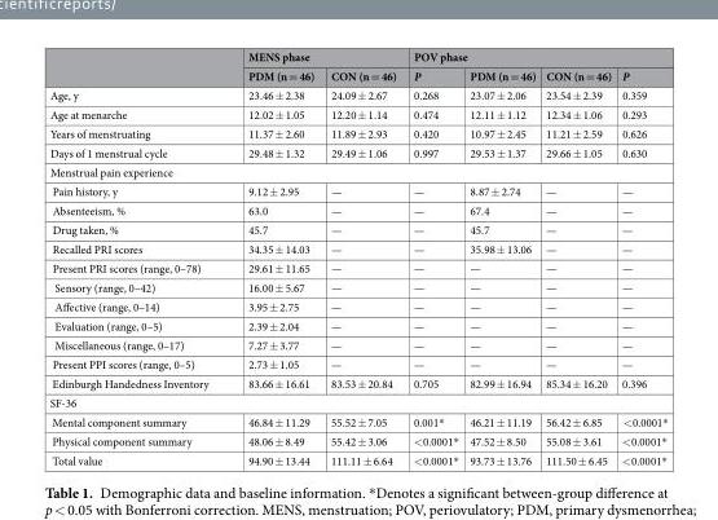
<table><thead><tr><td rowspan="2"></td><td colspan="2">MENS phase</td><td colspan="4">POV phase</td></tr><tr><td>PDM (n = 46)</td><td>CON (n = 46)</td><td>P</td><td>PDM (n = 46)</td><td>CON (n = 46)</td><td>P</td></tr></thead><tbody><tr><td>Age, y</td><td>23.46 ± 2.38</td><td>24.09 ± 2.67</td><td>0.268</td><td>23.07 ± 2.06</td><td>23.54 ± 2.39</td><td>0.359</td></tr><tr><td>Age at menarche</td><td>12.02 ± 1.05</td><td>12.20 ± 1.14</td><td>0.474</td><td>12.11 ± 1.12</td><td>12.34 ± 1.06</td><td>0.293</td></tr><tr><td>Years of menstruating</td><td>11.37 ± 2.60</td><td>11.89 ± 2.93</td><td>0.420</td><td>10.97 ± 2.45</td><td>11.21 ± 2.59</td><td>0.626</td></tr><tr><td>Days of 1 menstrual cycle</td><td>29.48 ± 1.32</td><td>29.49 ± 1.06</td><td>0.997</td><td>29.53 ± 1.37</td><td>29.66 ± 1.05</td><td>0.630</td></tr><tr><td colspan="7">Menstrual pain experience</td></tr><tr><td>Pain history, y</td><td>9.12 ± 2.95</td><td>—</td><td>—</td><td>8.87 ± 2.74</td><td>—</td><td>—</td></tr><tr><td>Absenteeism, %</td><td>63.0</td><td>—</td><td>—</td><td>67.4</td><td>—</td><td>—</td></tr><tr><td>Drug taken, %</td><td>45.7</td><td>—</td><td>—</td><td>45.7</td><td>—</td><td>—</td></tr><tr><td>Recalled PRI scores</td><td>34.35 ± 14.03</td><td>—</td><td>—</td><td>35.98 ± 13.06</td><td>—</td><td>—</td></tr><tr><td>Present PRI scores (range, 0–78)</td><td>29.61 ± 11.65</td><td>—</td><td>—</td><td>—</td><td>—</td><td>—</td></tr><tr><td>Sensory (range, 0–42)</td><td>16.00 ± 5.67</td><td>—</td><td>—</td><td>—</td><td>—</td><td>—</td></tr><tr><td>Affective (range, 0–14)</td><td>3.95 ± 2.75</td><td>—</td><td>—</td><td>—</td><td>—</td><td>—</td></tr><tr><td>Evaluation (range, 0–5)</td><td>2.39 ± 2.04</td><td>—</td><td>—</td><td>—</td><td>—</td><td>—</td></tr><tr><td>Miscellaneous (range, 0–17)</td><td>7.27 ± 3.77</td><td>—</td><td>—</td><td>—</td><td>—</td><td>—</td></tr><tr><td>Present PPI scores (range, 0–5)</td><td>2.73 ± 1.05</td><td>—</td><td>—</td><td>—</td><td>—</td><td>—</td></tr><tr><td>Edinburgh Handedness Inventory</td><td>83.66 ± 16.61</td><td>83.53 ± 20.84</td><td>0.705</td><td>82.99 ± 16.94</td><td>85.34 ± 16.20</td><td>0.396</td></tr><tr><td colspan="7">SF-36</td></tr><tr><td>Mental component summary</td><td>46.84 ± 11.29</td><td>55.52 ± 7.05</td><td>0.001*</td><td>46.21 ± 11.19</td><td>56.42 ± 6.85</td><td>&lt;0.0001*</td></tr><tr><td>Physical component summary</td><td>48.06 ± 8.49</td><td>55.42 ± 3.06</td><td>&lt;0.0001*</td><td>47.52 ± 8.50</td><td>55.08 ± 3.61</td><td>&lt;0.0001*</td></tr><tr><td>Total value</td><td>94.90 ± 13.44</td><td>111.11 ± 6.64</td><td>&lt;0.0001*</td><td>93.73 ± 13.76</td><td>111.50 ± 6.45</td><td>&lt;0.0001*</td></tr></tbody></table>